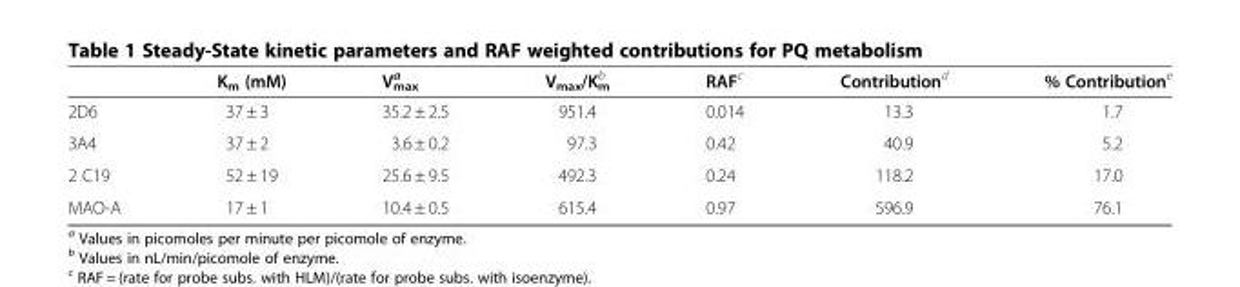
<table><thead><tr><td></td><td>K<sub>m</sub> (mM)</td><td>V<sub>max</sub> <sup>a</sup></td><td>V<sub>max</sub>/K<sub>m</sub> <sup>b</sup></td><td>RAF<sup>c</sup></td><td>Contribution<sup>d</sup></td><td>% Contribution<sup>e</sup></td></tr></thead><tbody><tr><td>2D6</td><td>37 ± 3</td><td>35.2 ± 2.5</td><td>951.4</td><td>0.014</td><td>13.3</td><td>1.7</td></tr><tr><td>3A4</td><td>37 ± 2</td><td>3.6 ± 0.2</td><td>97.3</td><td>0.42</td><td>40.9</td><td>5.2</td></tr><tr><td>2 C19</td><td>52 ± 19</td><td>25.6 ± 9.5</td><td>492.3</td><td>0.24</td><td>118.2</td><td>17.0</td></tr><tr><td>MAO-A</td><td>17 ± 1</td><td>10.4 ± 0.5</td><td>615.4</td><td>0.97</td><td>596.9</td><td>76.1</td></tr></tbody></table>